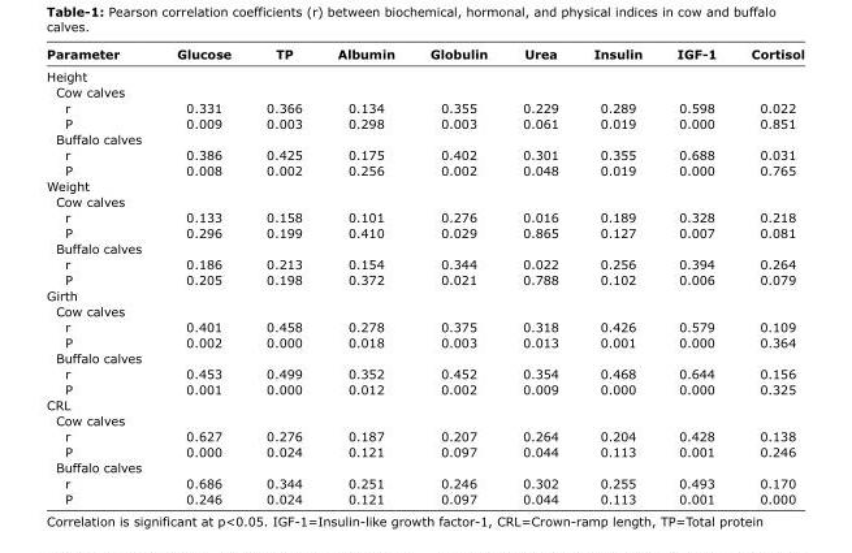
<table><thead><tr><td>Parameter</td><td>Glucose</td><td>TP</td><td>Albumin</td><td>Globulin</td><td>Urea</td><td>Insulin</td><td>IGF-1</td><td>Cortisol</td></tr></thead><tbody><tr><td colspan="9">Height</td></tr><tr><td colspan="9">Cow calves</td></tr><tr><td>r</td><td>0.331</td><td>0.366</td><td>0.134</td><td>0.355</td><td>0.229</td><td>0.289</td><td>0.598</td><td>0.022</td></tr><tr><td>P</td><td>0.009</td><td>0.003</td><td>0.298</td><td>0.003</td><td>0.061</td><td>0.019</td><td>0.000</td><td>0.851</td></tr><tr><td colspan="9">Buffalo calves</td></tr><tr><td>r</td><td>0.386</td><td>0.425</td><td>0.175</td><td>0.402</td><td>0.301</td><td>0.355</td><td>0.688</td><td>0.031</td></tr><tr><td>P</td><td>0.008</td><td>0.002</td><td>0.256</td><td>0.002</td><td>0.048</td><td>0.019</td><td>0.000</td><td>0.765</td></tr><tr><td colspan="9">Weight</td></tr><tr><td colspan="9">Cow calves</td></tr><tr><td>r</td><td>0.133</td><td>0.158</td><td>0.101</td><td>0.276</td><td>0.016</td><td>0.189</td><td>0.328</td><td>0.218</td></tr><tr><td>P</td><td>0.296</td><td>0.199</td><td>0.410</td><td>0.029</td><td>0.865</td><td>0.127</td><td>0.007</td><td>0.081</td></tr><tr><td colspan="9">Buffalo calves</td></tr><tr><td>r</td><td>0.186</td><td>0.213</td><td>0.154</td><td>0.344</td><td>0.022</td><td>0.256</td><td>0.394</td><td>0.264</td></tr><tr><td>P</td><td>0.205</td><td>0.198</td><td>0.372</td><td>0.021</td><td>0.788</td><td>0.102</td><td>0.006</td><td>0.079</td></tr><tr><td colspan="9">Girth</td></tr><tr><td colspan="9">Cow calves</td></tr><tr><td>r</td><td>0.401</td><td>0.458</td><td>0.278</td><td>0.375</td><td>0.318</td><td>0.426</td><td>0.579</td><td>0.109</td></tr><tr><td>P</td><td>0.002</td><td>0.000</td><td>0.018</td><td>0.003</td><td>0.013</td><td>0.001</td><td>0.000</td><td>0.364</td></tr><tr><td colspan="9">Buffalo calves</td></tr><tr><td>r</td><td>0.453</td><td>0.499</td><td>0.352</td><td>0.452</td><td>0.354</td><td>0.468</td><td>0.644</td><td>0.156</td></tr><tr><td>P</td><td>0.001</td><td>0.000</td><td>0.012</td><td>0.002</td><td>0.009</td><td>0.000</td><td>0.000</td><td>0.325</td></tr><tr><td colspan="9">CRL</td></tr><tr><td colspan="9">Cow calves</td></tr><tr><td>r</td><td>0.627</td><td>0.276</td><td>0.187</td><td>0.207</td><td>0.264</td><td>0.204</td><td>0.428</td><td>0.138</td></tr><tr><td>P</td><td>0.000</td><td>0.024</td><td>0.121</td><td>0.097</td><td>0.044</td><td>0.113</td><td>0.001</td><td>0.246</td></tr><tr><td colspan="9">Buffalo calves</td></tr><tr><td>r</td><td>0.686</td><td>0.344</td><td>0.251</td><td>0.246</td><td>0.302</td><td>0.255</td><td>0.493</td><td>0.170</td></tr><tr><td>P</td><td>0.246</td><td>0.024</td><td>0.121</td><td>0.097</td><td>0.044</td><td>0.113</td><td>0.001</td><td>0.000</td></tr></tbody></table>